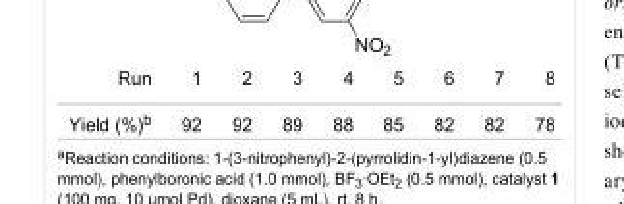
<table><tbody><tr><td>Run</td><td>1</td><td>2</td><td>3</td><td>4</td><td>5</td><td>6</td><td>7</td><td>8</td></tr><tr><td>Yield (%)b</td><td>92</td><td>92</td><td>89</td><td>88</td><td>85</td><td>82</td><td>82</td><td>78</td></tr></tbody></table>